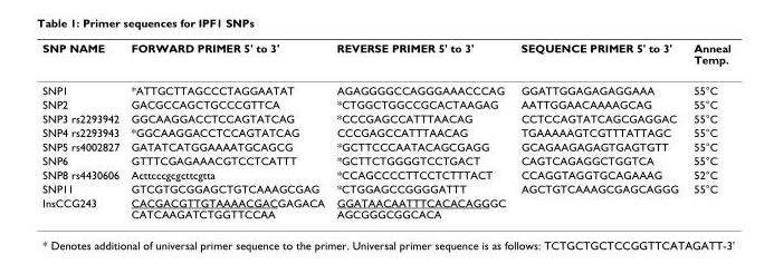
<table><thead><tr><td>SNP NAME</td><td>FORWARD PRIMER 5&#x27; to 3&#x27;</td><td>REVERSE PRIMER 5&#x27; to 3&#x27;</td><td>SEQUENCE PRIMER 5&#x27; to 3&#x27;</td><td>Anneal Temp.</td></tr></thead><tbody><tr><td>SNP1</td><td>*ATTGCTTAGCCCTAGGAATAT</td><td>AGAGGGGCCAGGGAAACCCAG</td><td>GGATTGGAGAGAGGAAA</td><td>55°C</td></tr><tr><td>SNP2</td><td>GACGCCAGCTGCCCGTTCA</td><td>*CTGGCTGGCCGCACTAAGAG</td><td>AATTGGAACAAAAGCAG</td><td>55°C</td></tr><tr><td>SNP3 rs2293942</td><td>GGCAAGGACCTCCAGTATCAG</td><td>*CCCGAGCCATTTAACAG</td><td>CCTCCAGTATCAGCGAGGAC</td><td>55°C</td></tr><tr><td>SNP4 rs2293943</td><td>*GGCAAGGACCTCCAGTATCAG</td><td>CCCGAGCCATTTAACAG</td><td>TGAAAAAGTCGTTTATTAGC</td><td>55°C</td></tr><tr><td>SNP5 rs4002827</td><td>GATATCATGGAAAATGCAGCG</td><td>*GCTTCCCAATACAGCGAGG</td><td>GCAGAAGAGAGTGAGTGTT</td><td>55°C</td></tr><tr><td>SNP6</td><td>GTTTCGAGAAACGTCCTCATTT</td><td>*GCTTCTGGGGTCCTGACT</td><td>CAGTCAGAGGCTGGTCA</td><td>55°C</td></tr><tr><td>SNP8 rs4430606</td><td>Acttcccgcgcttcgtta</td><td>*CCAGCCCCTTCCTCTTTACT</td><td>CCAGGTAGGTGCAGAAAG</td><td>52°C</td></tr><tr><td>SNP11</td><td>GTCGTGCGGAGCTGTCAAAGCGAG</td><td>*CTGGAGCCGGGGATTT</td><td>AGCTGTCAAAGCGAGCAGGG</td><td>55°C</td></tr><tr><td>InsCCG243</td><td>CACGACGTTGTAAAACGACGAGACA CATCAAGATCTGGTTCCAA</td><td>GGATAACAATTTCACACAGGGC AGCGGGCGGCACA</td><td></td><td></td></tr></tbody></table>